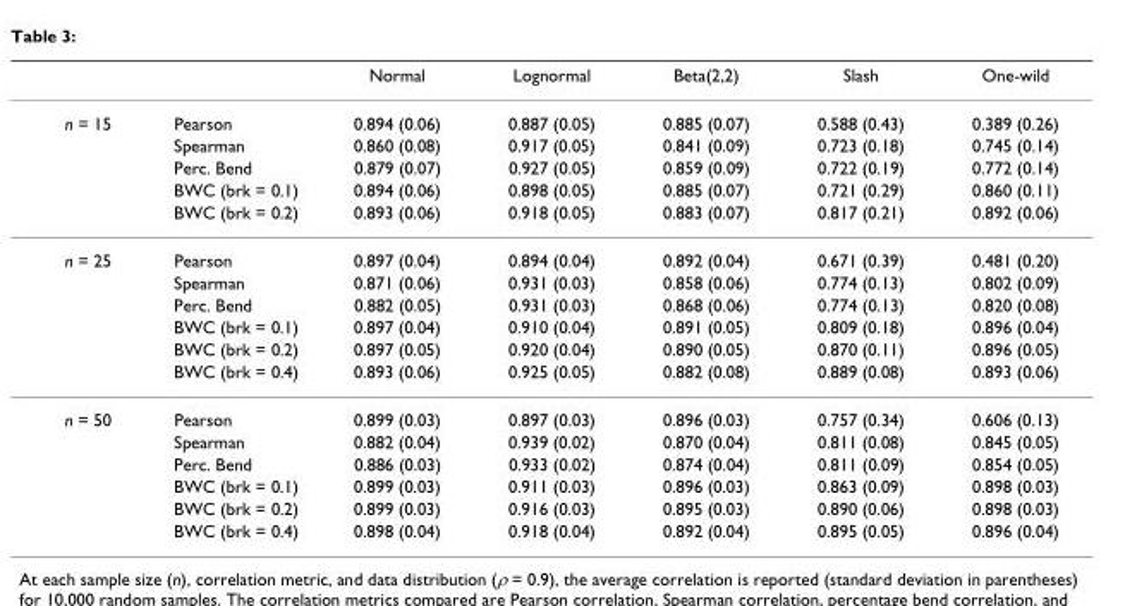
<table><thead><tr><td></td><td></td><td>Normal</td><td>Lognormal</td><td>Beta(2,2)</td><td>Slash</td><td>One-wild</td></tr></thead><tbody><tr><td rowspan="5">n = 15</td><td>Pearson</td><td>0.894 (0.06)</td><td>0.887 (0.05)</td><td>0.885 (0.07)</td><td>0.588 (0.43)</td><td>0.389 (0.26)</td></tr><tr><td>Spearman</td><td>0.860 (0.08)</td><td>0.917 (0.05)</td><td>0.841 (0.09)</td><td>0.723 (0.18)</td><td>0.745 (0.14)</td></tr><tr><td>Perc. Bend</td><td>0.879 (0.07)</td><td>0.927 (0.05)</td><td>0.859 (0.09)</td><td>0.722 (0.19)</td><td>0.772 (0.14)</td></tr><tr><td>BWC (brk = 0.1)</td><td>0.894 (0.06)</td><td>0.898 (0.05)</td><td>0.885 (0.07)</td><td>0.721 (0.29)</td><td>0.860 (0.11)</td></tr><tr><td>BWC (brk = 0.2)</td><td>0.893 (0.06)</td><td>0.918 (0.05)</td><td>0.883 (0.07)</td><td>0.817 (0.21)</td><td>0.892 (0.06)</td></tr><tr><td rowspan="6">n = 25</td><td>Pearson</td><td>0.897 (0.04)</td><td>0.894 (0.04)</td><td>0.892 (0.04)</td><td>0.671 (0.39)</td><td>0.481 (0.20)</td></tr><tr><td>Spearman</td><td>0.871 (0.06)</td><td>0.931 (0.03)</td><td>0.858 (0.06)</td><td>0.774 (0.13)</td><td>0.802 (0.09)</td></tr><tr><td>Perc. Bend</td><td>0.882 (0.05)</td><td>0.931 (0.03)</td><td>0.868 (0.06)</td><td>0.774 (0.13)</td><td>0.820 (0.08)</td></tr><tr><td>BWC (brk = 0.1)</td><td>0.897 (0.04)</td><td>0.910 (0.04)</td><td>0.891 (0.05)</td><td>0.809 (0.18)</td><td>0.896 (0.04)</td></tr><tr><td>BWC (brk = 0.2)</td><td>0.897 (0.05)</td><td>0.920 (0.04)</td><td>0.890 (0.05)</td><td>0.870 (0.11)</td><td>0.896 (0.05)</td></tr><tr><td>BWC (brk = 0.4)</td><td>0.893 (0.06)</td><td>0.925 (0.05)</td><td>0.882 (0.08)</td><td>0.889 (0.08)</td><td>0.893 (0.06)</td></tr><tr><td rowspan="6">n = 50</td><td>Pearson</td><td>0.899 (0.03)</td><td>0.897 (0.03)</td><td>0.896 (0.03)</td><td>0.757 (0.34)</td><td>0.606 (0.13)</td></tr><tr><td>Spearman</td><td>0.882 (0.04)</td><td>0.939 (0.02)</td><td>0.870 (0.04)</td><td>0.811 (0.08)</td><td>0.845 (0.05)</td></tr><tr><td>Perc. Bend</td><td>0.886 (0.03)</td><td>0.933 (0.02)</td><td>0.874 (0.04)</td><td>0.811 (0.09)</td><td>0.854 (0.05)</td></tr><tr><td>BWC (brk = 0.1)</td><td>0.899 (0.03)</td><td>0.911 (0.03)</td><td>0.896 (0.03)</td><td>0.863 (0.09)</td><td>0.898 (0.03)</td></tr><tr><td>BWC (brk = 0.2)</td><td>0.899 (0.03)</td><td>0.916 (0.03)</td><td>0.895 (0.03)</td><td>0.890 (0.06)</td><td>0.898 (0.03)</td></tr><tr><td>BWC (brk = 0.4)</td><td>0.898 (0.04)</td><td>0.918 (0.04)</td><td>0.892 (0.04)</td><td>0.895 (0.05)</td><td>0.896 (0.04)</td></tr></tbody></table>